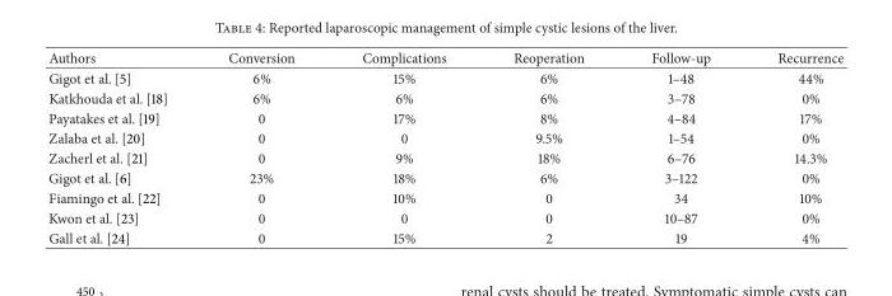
<table><thead><tr><td>Authors</td><td>Conversion</td><td>Complications</td><td>Reoperation</td><td>Follow-up</td><td>Recurrence</td></tr></thead><tbody><tr><td>Gigot et al. [5]</td><td>6%</td><td>15%</td><td>6%</td><td>1–48</td><td>44%</td></tr><tr><td>Katkhouda et al. [18]</td><td>6%</td><td>6%</td><td>6%</td><td>3–78</td><td>0%</td></tr><tr><td>Payatakes et al. [19]</td><td>0</td><td>17%</td><td>8%</td><td>4–84</td><td>17%</td></tr><tr><td>Zalaba et al. [20]</td><td>0</td><td>0</td><td>9.5%</td><td>1–54</td><td>0%</td></tr><tr><td>Zacherl et al. [21]</td><td>0</td><td>9%</td><td>18%</td><td>6–76</td><td>14.3%</td></tr><tr><td>Gigot et al. [6]</td><td>23%</td><td>18%</td><td>6%</td><td>3–122</td><td>0%</td></tr><tr><td>Fiamingo et al. [22]</td><td>0</td><td>10%</td><td>0</td><td>34</td><td>10%</td></tr><tr><td>Kwon et al. [23]</td><td>0</td><td>0</td><td>0</td><td>10–87</td><td>0%</td></tr><tr><td>Gall et al. [24]</td><td>0</td><td>15%</td><td>2</td><td>19</td><td>4%</td></tr></tbody></table>